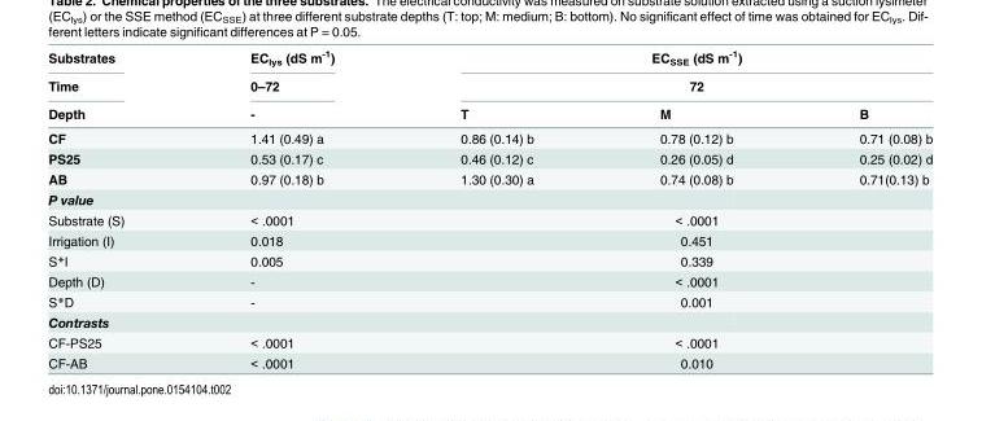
<table><thead><tr><td rowspan="3">Substrates Time Depth</td><td rowspan="3">EC<sub>lys</sub> (dS m<sup>-1</sup>) 0–72 -</td><td rowspan="2" colspan="3">EC<sub>SSE</sub> (dS m<sup>-1</sup>) 72</td></tr><tr></tr><tr><td>T</td><td>M</td><td>B</td></tr></thead><tbody><tr><td>CF</td><td>1.41 (0.49) a</td><td>0.86 (0.14) b</td><td>0.78 (0.12) b</td><td>0.71 (0.08) b</td></tr><tr><td>PS25</td><td>0.53 (0.17) c</td><td>0.46 (0.12) c</td><td>0.26 (0.05) d</td><td>0.25 (0.02) d</td></tr><tr><td>AB</td><td>0.97 (0.18) b</td><td>1.30 (0.30) a</td><td>0.74 (0.08) b</td><td>0.71(0.13) b</td></tr><tr><td colspan="5">P value</td></tr><tr><td>Substrate (S)</td><td>&lt; .0001</td><td colspan="3">&lt; .0001</td></tr><tr><td>Irrigation (I)</td><td>0.018</td><td colspan="3">0.451</td></tr><tr><td>S*I</td><td>0.005</td><td colspan="3">0.339</td></tr><tr><td>Depth (D)</td><td>-</td><td colspan="3">&lt; .0001</td></tr><tr><td>S*D</td><td>-</td><td colspan="3">0.001</td></tr><tr><td colspan="5">Contrasts</td></tr><tr><td>CF-PS25</td><td>&lt; .0001</td><td colspan="3">&lt; .0001</td></tr><tr><td>CF-AB</td><td>&lt; .0001</td><td colspan="3">0.010</td></tr></tbody></table>